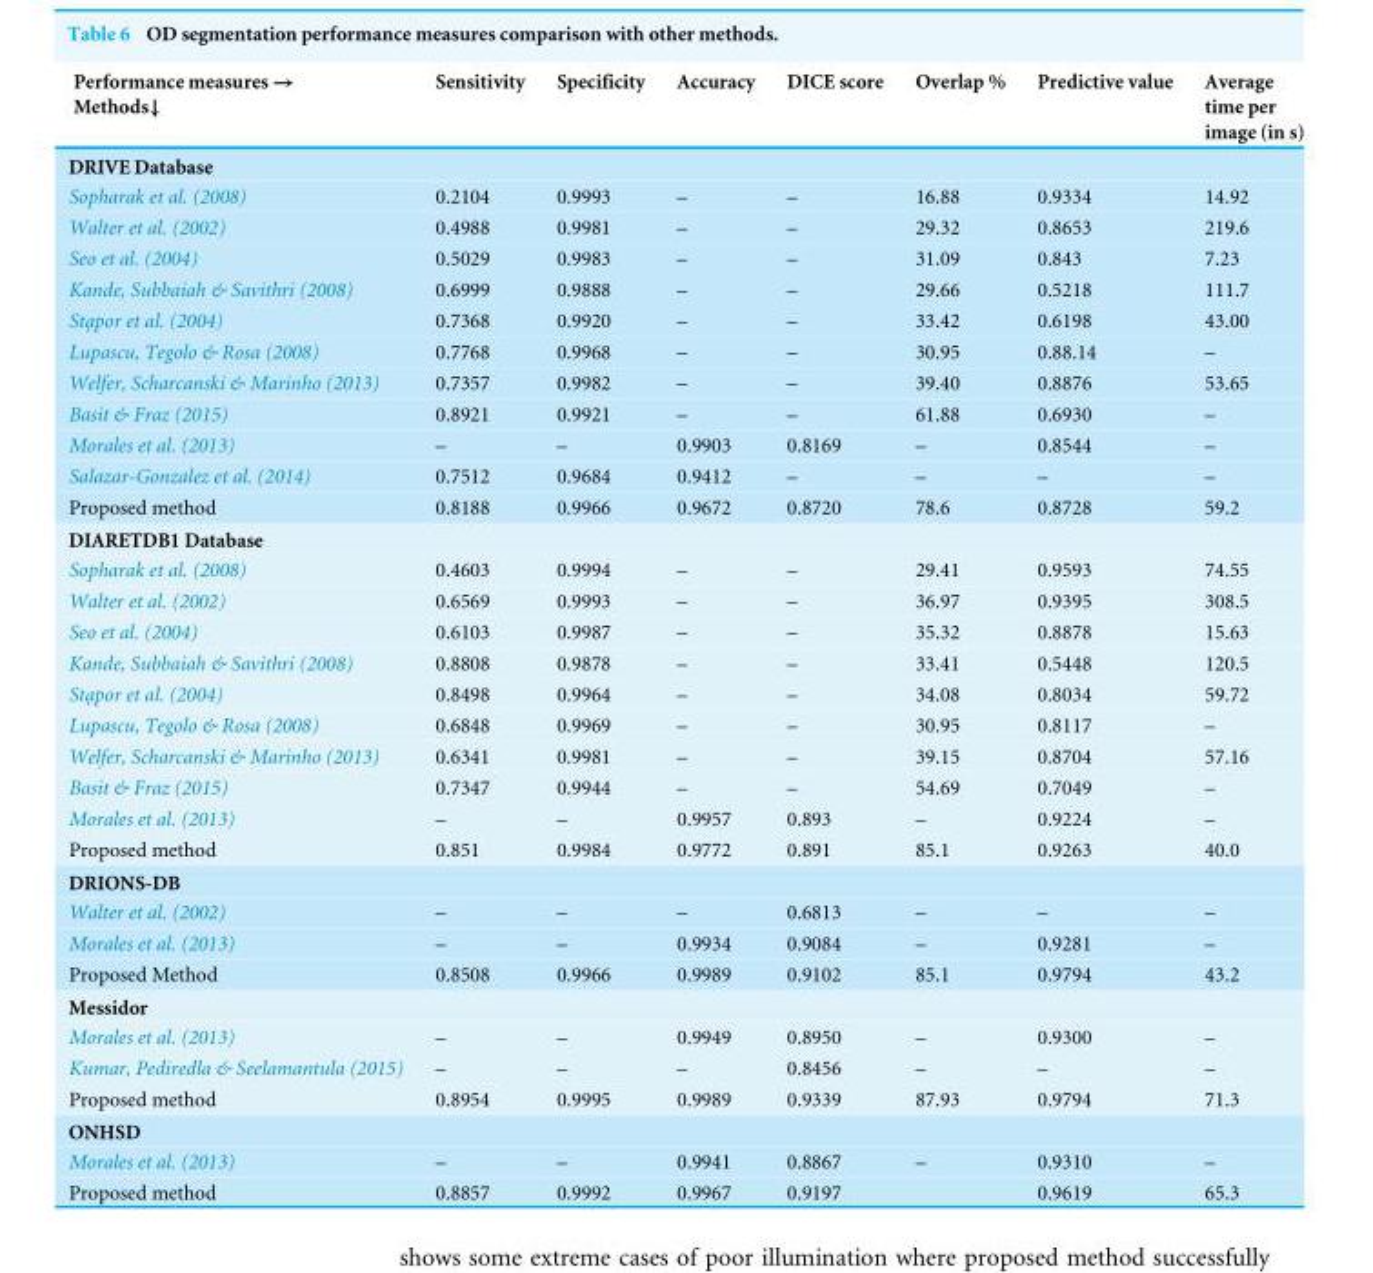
<table><thead><tr><td>Performance measures → Methods↓</td><td>Sensitivity</td><td>Specificity</td><td>Accuracy</td><td>DICE score</td><td>Overlap %</td><td>Predictive value</td><td>Average time per image (in s)</td></tr></thead><tbody><tr><td colspan="8">DRIVE Database</td></tr><tr><td>Sopharak et al. (2008)</td><td>0.2104</td><td>0.9993</td><td>–</td><td>–</td><td>16.88</td><td>0.9334</td><td>14.92</td></tr><tr><td>Walter et al. (2002)</td><td>0.4988</td><td>0.9981</td><td>–</td><td>–</td><td>29.32</td><td>0.8653</td><td>219.6</td></tr><tr><td>Seo et al. (2004)</td><td>0.5029</td><td>0.9983</td><td>–</td><td>–</td><td>31.09</td><td>0.843</td><td>7.23</td></tr><tr><td>Kande, Subbaiah &amp; Savithri (2008)</td><td>0.6999</td><td>0.9888</td><td>–</td><td>–</td><td>29.66</td><td>0.5218</td><td>111.7</td></tr><tr><td>Sta¸por et al. (2004)</td><td>0.7368</td><td>0.9920</td><td>–</td><td>–</td><td>33.42</td><td>0.6198</td><td>43.00</td></tr><tr><td>Lupascu, Tegolo &amp; Rosa (2008)</td><td>0.7768</td><td>0.9968</td><td>–</td><td>–</td><td>30.95</td><td>0.88.14</td><td>–</td></tr><tr><td>Welfer, Scharcanski &amp; Marinho (2013)</td><td>0.7357</td><td>0.9982</td><td>–</td><td>–</td><td>39.40</td><td>0.8876</td><td>53.65</td></tr><tr><td>Basit &amp; Fraz (2015)</td><td>0.8921</td><td>0.9921</td><td>–</td><td>–</td><td>61.88</td><td>0.6930</td><td>–</td></tr><tr><td>Morales et al. (2013)</td><td>–</td><td>–</td><td>0.9903</td><td>0.8169</td><td>–</td><td>0.8544</td><td>–</td></tr><tr><td>Salazar-Gonzalez et al. (2014)</td><td>0.7512</td><td>0.9684</td><td>0.9412</td><td>–</td><td>–</td><td>–</td><td>–</td></tr><tr><td>Proposed method</td><td>0.8188</td><td>0.9966</td><td>0.9672</td><td>0.8720</td><td>78.6</td><td>0.8728</td><td>59.2</td></tr><tr><td colspan="8">DIARETDB1 Database</td></tr><tr><td>Sopharak et al. (2008)</td><td>0.4603</td><td>0.9994</td><td>–</td><td>–</td><td>29.41</td><td>0.9593</td><td>74.55</td></tr><tr><td>Walter et al. (2002)</td><td>0.6569</td><td>0.9993</td><td>–</td><td>–</td><td>36.97</td><td>0.9395</td><td>308.5</td></tr><tr><td>Seo et al. (2004)</td><td>0.6103</td><td>0.9987</td><td>–</td><td>–</td><td>35.32</td><td>0.8878</td><td>15.63</td></tr><tr><td>Kande, Subbaiah &amp; Savithri (2008)</td><td>0.8808</td><td>0.9878</td><td>–</td><td>–</td><td>33.41</td><td>0.5448</td><td>120.5</td></tr><tr><td>Sta¸por et al. (2004)</td><td>0.8498</td><td>0.9964</td><td>–</td><td>–</td><td>34.08</td><td>0.8034</td><td>59.72</td></tr><tr><td>Lupascu, Tegolo &amp; Rosa (2008)</td><td>0.6848</td><td>0.9969</td><td>–</td><td>–</td><td>30.95</td><td>0.8117</td><td>–</td></tr><tr><td>Welfer, Scharcanski &amp; Marinho (2013)</td><td>0.6341</td><td>0.9981</td><td>–</td><td>–</td><td>39.15</td><td>0.8704</td><td>57.16</td></tr><tr><td>Basit &amp; Fraz (2015)</td><td>0.7347</td><td>0.9944</td><td>–</td><td>–</td><td>54.69</td><td>0.7049</td><td>–</td></tr><tr><td>Morales et al. (2013)</td><td>–</td><td>–</td><td>0.9957</td><td>0.893</td><td>–</td><td>0.9224</td><td>–</td></tr><tr><td>Proposed method</td><td>0.851</td><td>0.9984</td><td>0.9772</td><td>0.891</td><td>85.1</td><td>0.9263</td><td>40.0</td></tr><tr><td colspan="8">DRIONS-DB</td></tr><tr><td>Walter et al. (2002)</td><td>–</td><td>–</td><td>–</td><td>0.6813</td><td>–</td><td>–</td><td>–</td></tr><tr><td>Morales et al. (2013)</td><td>–</td><td>–</td><td>0.9934</td><td>0.9084</td><td>–</td><td>0.9281</td><td>–</td></tr><tr><td>Proposed Method</td><td>0.8508</td><td>0.9966</td><td>0.9989</td><td>0.9102</td><td>85.1</td><td>0.9794</td><td>43.2</td></tr><tr><td colspan="8">Messidor</td></tr><tr><td>Morales et al. (2013)</td><td>–</td><td>–</td><td>0.9949</td><td>0.8950</td><td>–</td><td>0.9300</td><td>–</td></tr><tr><td>Kumar, Pediredla &amp; Seelamantula (2015)</td><td>–</td><td>–</td><td>–</td><td>0.8456</td><td>–</td><td>–</td><td>–</td></tr><tr><td>Proposed method</td><td>0.8954</td><td>0.9995</td><td>0.9989</td><td>0.9339</td><td>87.93</td><td>0.9794</td><td>71.3</td></tr><tr><td colspan="8">ONHSD</td></tr><tr><td>Morales et al. (2013)</td><td>–</td><td>–</td><td>0.9941</td><td>0.8867</td><td>–</td><td>0.9310</td><td>–</td></tr><tr><td>Proposed method</td><td>0.8857</td><td>0.9992</td><td>0.9967</td><td>0.9197</td><td></td><td>0.9619</td><td>65.3</td></tr></tbody></table>